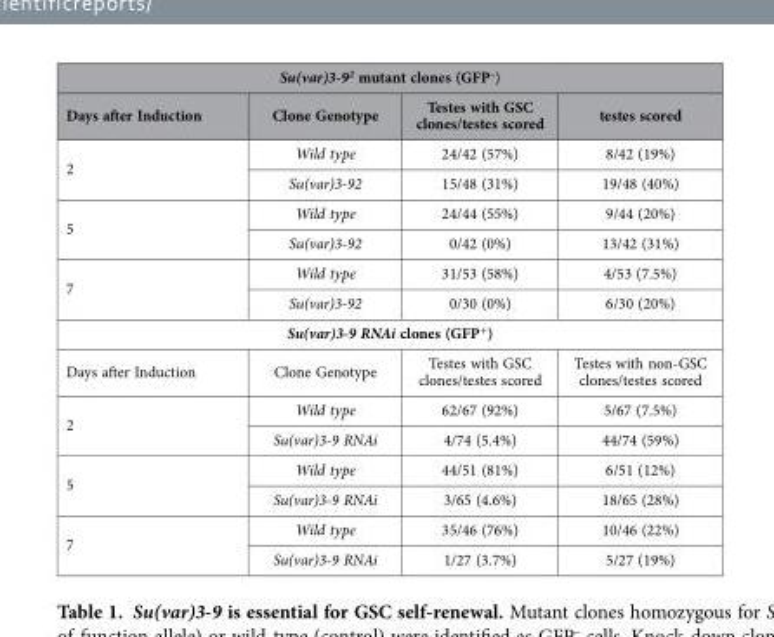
<table><thead><tr><td colspan="4">Su(var)3-9<sup>2</sup> mutant clones (GFP<sup>–</sup>)</td></tr><tr><td>Days after Induction</td><td>Clone Genotype</td><td>Testes with GSC clones/testes scored</td><td>testes scored</td></tr></thead><tbody><tr><td rowspan="2">2</td><td>Wild type</td><td>24/42 (57%)</td><td>8/42 (19%)</td></tr><tr><td>Su(var)3-92</td><td>15/48 (31%)</td><td>19/48 (40%)</td></tr><tr><td rowspan="2">5</td><td>Wild type</td><td>24/44 (55%)</td><td>9/44 (20%)</td></tr><tr><td>Su(var)3-92</td><td>0/42 (0%)</td><td>13/42 (31%)</td></tr><tr><td rowspan="2">7</td><td>Wild type</td><td>31/53 (58%)</td><td>4/53 (7.5%)</td></tr><tr><td>Su(var)3-92</td><td>0/30 (0%)</td><td>6/30 (20%)</td></tr><tr><td colspan="4">Su(var)3-9 RNAi clones (GFP<sup>+</sup>)</td></tr><tr><td>Days after Induction</td><td>Clone Genotype</td><td>Testes with GSC clones/testes scored</td><td>Testes with non-GSC clones/testes scored</td></tr><tr><td rowspan="2">2</td><td>Wild type</td><td>62/67 (92%)</td><td>5/67 (7.5%)</td></tr><tr><td>Su(var)3-9 RNAi</td><td>4/74 (5.4%)</td><td>44/74 (59%)</td></tr><tr><td rowspan="2">5</td><td>Wild type</td><td>44/51 (81%)</td><td>6/51 (12%)</td></tr><tr><td>Su(var)3-9 RNAi</td><td>3/65 (4.6%)</td><td>18/65 (28%)</td></tr><tr><td rowspan="2">7</td><td>Wild type</td><td>35/46 (76%)</td><td>10/46 (22%)</td></tr><tr><td>Su(var)3-9 RNAi</td><td>1/27 (3.7%)</td><td>5/27 (19%)</td></tr></tbody></table>